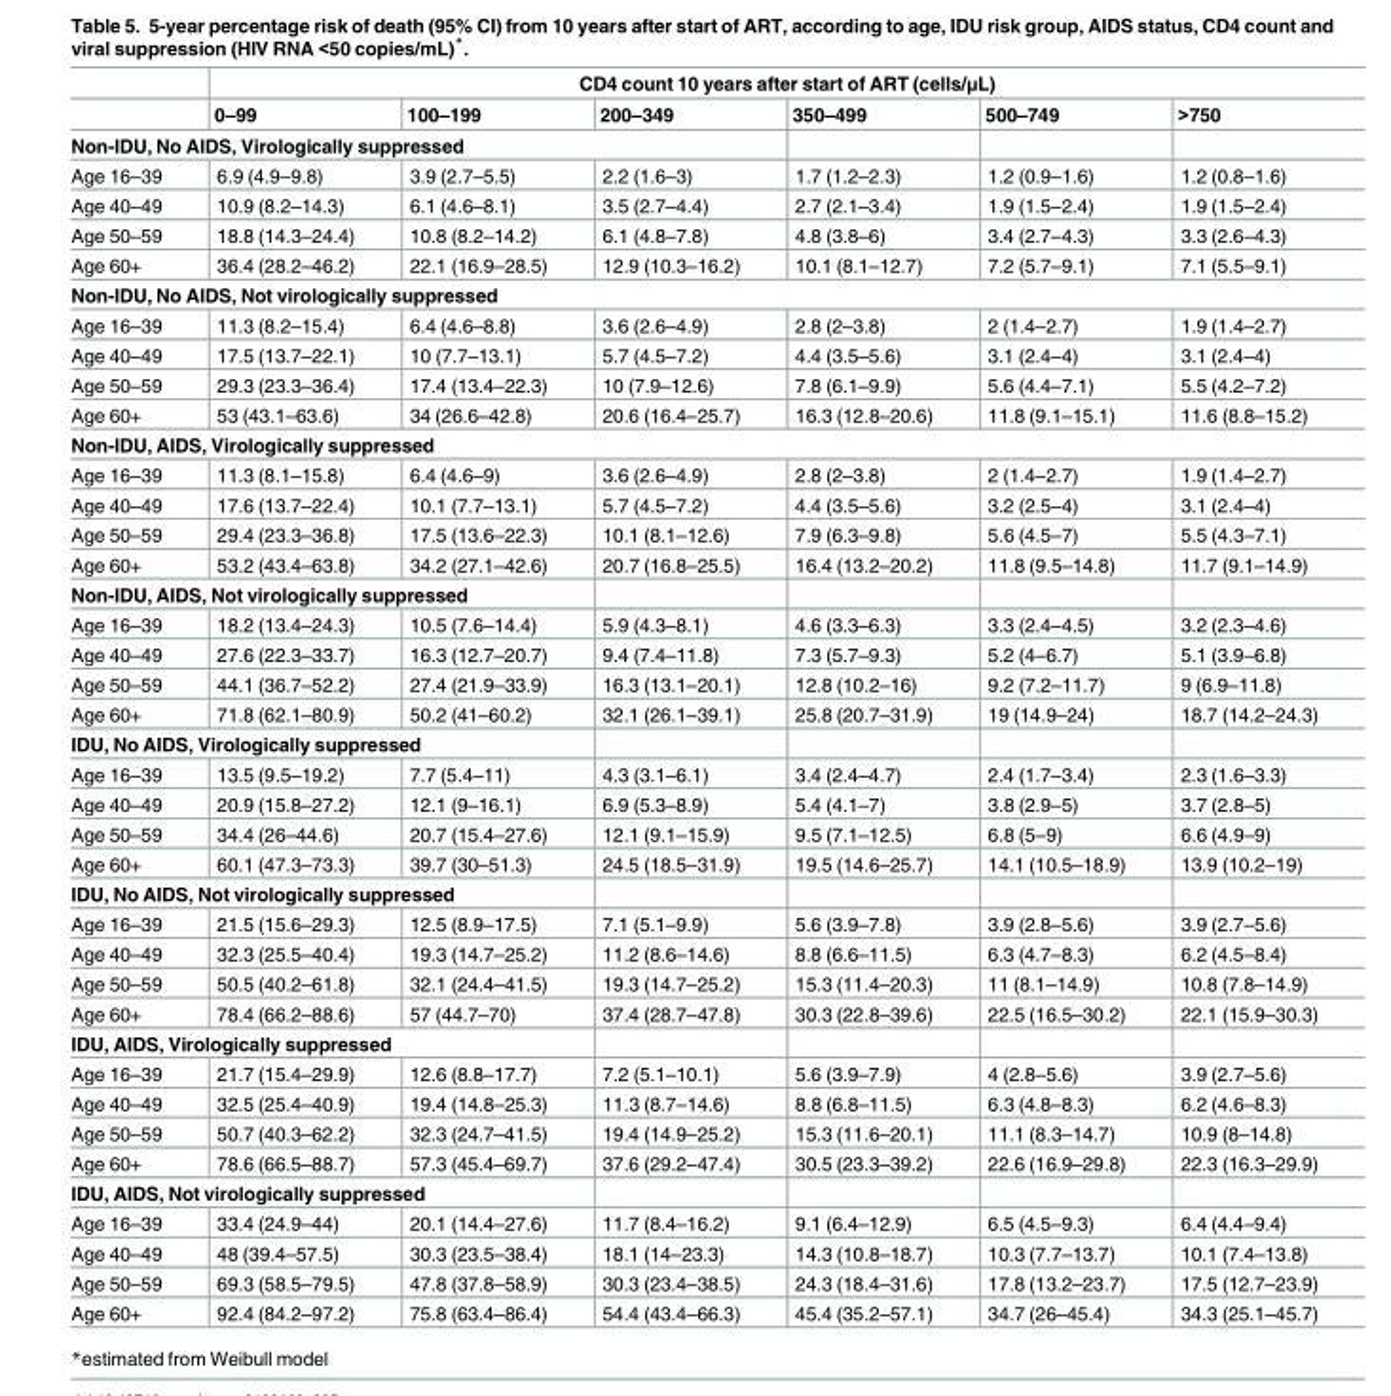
<table><thead><tr><td rowspan="2"></td><td colspan="6">CD4 count 10 years after start of ART (cells/μL)</td></tr><tr><td>0–99</td><td>100–199</td><td>200–349</td><td>350–499</td><td>500–749</td><td>&gt;750</td></tr></thead><tbody><tr><td colspan="7">Non-IDU, No AIDS, Virologically suppressed</td></tr><tr><td>Age 16–39</td><td>6.9 (4.9–9.8)</td><td>3.9 (2.7–5.5)</td><td>2.2 (1.6–3)</td><td>1.7 (1.2–2.3)</td><td>1.2 (0.9–1.6)</td><td>1.2 (0.8–1.6)</td></tr><tr><td>Age 40–49</td><td>10.9 (8.2–14.3)</td><td>6.1 (4.6–8.1)</td><td>3.5 (2.7–4.4)</td><td>2.7 (2.1–3.4)</td><td>1.9 (1.5–2.4)</td><td>1.9 (1.5–2.4)</td></tr><tr><td>Age 50–59</td><td>18.8 (14.3–24.4)</td><td>10.8 (8.2–14.2)</td><td>6.1 (4.8–7.8)</td><td>4.8 (3.8–6)</td><td>3.4 (2.7–4.3)</td><td>3.3 (2.6–4.3)</td></tr><tr><td>Age 60+</td><td>36.4 (28.2–46.2)</td><td>22.1 (16.9–28.5)</td><td>12.9 (10.3–16.2)</td><td>10.1 (8.1–12.7)</td><td>7.2 (5.7–9.1)</td><td>7.1 (5.5–9.1)</td></tr><tr><td colspan="7">Non-IDU, No AIDS, Not virologically suppressed</td></tr><tr><td>Age 16–39</td><td>11.3 (8.2–15.4)</td><td>6.4 (4.6–8.8)</td><td>3.6 (2.6–4.9)</td><td>2.8 (2–3.8)</td><td>2 (1.4–2.7)</td><td>1.9 (1.4–2.7)</td></tr><tr><td>Age 40–49</td><td>17.5 (13.7–22.1)</td><td>10 (7.7–13.1)</td><td>5.7 (4.5–7.2)</td><td>4.4 (3.5–5.6)</td><td>3.1 (2.4–4)</td><td>3.1 (2.4–4)</td></tr><tr><td>Age 50–59</td><td>29.3 (23.3–36.4)</td><td>17.4 (13.4–22.3)</td><td>10 (7.9–12.6)</td><td>7.8 (6.1–9.9)</td><td>5.6 (4.4–7.1)</td><td>5.5 (4.2–7.2)</td></tr><tr><td>Age 60+</td><td>53 (43.1–63.6)</td><td>34 (26.6–42.8)</td><td>20.6 (16.4–25.7)</td><td>16.3 (12.8–20.6)</td><td>11.8 (9.1–15.1)</td><td>11.6 (8.8–15.2)</td></tr><tr><td colspan="7">Non-IDU, AIDS, Virologically suppressed</td></tr><tr><td>Age 16–39</td><td>11.3 (8.1–15.8)</td><td>6.4 (4.6–9)</td><td>3.6 (2.6–4.9)</td><td>2.8 (2–3.8)</td><td>2 (1.4–2.7)</td><td>1.9 (1.4–2.7)</td></tr><tr><td>Age 40–49</td><td>17.6 (13.7–22.4)</td><td>10.1 (7.7–13.1)</td><td>5.7 (4.5–7.2)</td><td>4.4 (3.5–5.6)</td><td>3.2 (2.5–4)</td><td>3.1 (2.4–4)</td></tr><tr><td>Age 50–59</td><td>29.4 (23.3–36.8)</td><td>17.5 (13.6–22.3)</td><td>10.1 (8.1–12.6)</td><td>7.9 (6.3–9.8)</td><td>5.6 (4.5–7)</td><td>5.5 (4.3–7.1)</td></tr><tr><td>Age 60+</td><td>53.2 (43.4–63.8)</td><td>34.2 (27.1–42.6)</td><td>20.7 (16.8–25.5)</td><td>16.4 (13.2–20.2)</td><td>11.8 (9.5–14.8)</td><td>11.7 (9.1–14.9)</td></tr><tr><td colspan="7">Non-IDU, AIDS, Not virologically suppressed</td></tr><tr><td>Age 16–39</td><td>18.2 (13.4–24.3)</td><td>10.5 (7.6–14.4)</td><td>5.9 (4.3–8.1)</td><td>4.6 (3.3–6.3)</td><td>3.3 (2.4–4.5)</td><td>3.2 (2.3–4.6)</td></tr><tr><td>Age 40–49</td><td>27.6 (22.3–33.7)</td><td>16.3 (12.7–20.7)</td><td>9.4 (7.4–11.8)</td><td>7.3 (5.7–9.3)</td><td>5.2 (4–6.7)</td><td>5.1 (3.9–6.8)</td></tr><tr><td>Age 50–59</td><td>44.1 (36.7–52.2)</td><td>27.4 (21.9–33.9)</td><td>16.3 (13.1–20.1)</td><td>12.8 (10.2–16)</td><td>9.2 (7.2–11.7)</td><td>9 (6.9–11.8)</td></tr><tr><td>Age 60+</td><td>71.8 (62.1–80.9)</td><td>50.2 (41–60.2)</td><td>32.1 (26.1–39.1)</td><td>25.8 (20.7–31.9)</td><td>19 (14.9–24)</td><td>18.7 (14.2–24.3)</td></tr><tr><td colspan="7">IDU, No AIDS, Virologically suppressed</td></tr><tr><td>Age 16–39</td><td>13.5 (9.5–19.2)</td><td>7.7 (5.4–11)</td><td>4.3 (3.1–6.1)</td><td>3.4 (2.4–4.7)</td><td>2.4 (1.7–3.4)</td><td>2.3 (1.6–3.3)</td></tr><tr><td>Age 40–49</td><td>20.9 (15.8–27.2)</td><td>12.1 (9–16.1)</td><td>6.9 (5.3–8.9)</td><td>5.4 (4.1–7)</td><td>3.8 (2.9–5)</td><td>3.7 (2.8–5)</td></tr><tr><td>Age 50–59</td><td>34.4 (26–44.6)</td><td>20.7 (15.4–27.6)</td><td>12.1 (9.1–15.9)</td><td>9.5 (7.1–12.5)</td><td>6.8 (5–9)</td><td>6.6 (4.9–9)</td></tr><tr><td>Age 60+</td><td>60.1 (47.3–73.3)</td><td>39.7 (30–51.3)</td><td>24.5 (18.5–31.9)</td><td>19.5 (14.6–25.7)</td><td>14.1 (10.5–18.9)</td><td>13.9 (10.2–19)</td></tr><tr><td colspan="7">IDU, No AIDS, Not virologically suppressed</td></tr><tr><td>Age 16–39</td><td>21.5 (15.6–29.3)</td><td>12.5 (8.9–17.5)</td><td>7.1 (5.1–9.9)</td><td>5.6 (3.9–7.8)</td><td>3.9 (2.8–5.6)</td><td>3.9 (2.7–5.6)</td></tr><tr><td>Age 40–49</td><td>32.3 (25.5–40.4)</td><td>19.3 (14.7–25.2)</td><td>11.2 (8.6–14.6)</td><td>8.8 (6.6–11.5)</td><td>6.3 (4.7–8.3)</td><td>6.2 (4.5–8.4)</td></tr><tr><td>Age 50–59</td><td>50.5 (40.2–61.8)</td><td>32.1 (24.4–41.5)</td><td>19.3 (14.7–25.2)</td><td>15.3 (11.4–20.3)</td><td>11 (8.1–14.9)</td><td>10.8 (7.8–14.9)</td></tr><tr><td>Age 60+</td><td>78.4 (66.2–88.6)</td><td>57 (44.7–70)</td><td>37.4 (28.7–47.8)</td><td>30.3 (22.8–39.6)</td><td>22.5 (16.5–30.2)</td><td>22.1 (15.9–30.3)</td></tr><tr><td colspan="7">IDU, AIDS, Virologically suppressed</td></tr><tr><td>Age 16–39</td><td>21.7 (15.4–29.9)</td><td>12.6 (8.8–17.7)</td><td>7.2 (5.1–10.1)</td><td>5.6 (3.9–7.9)</td><td>4 (2.8–5.6)</td><td>3.9 (2.7–5.6)</td></tr><tr><td>Age 40–49</td><td>32.5 (25.4–40.9)</td><td>19.4 (14.8–25.3)</td><td>11.3 (8.7–14.6)</td><td>8.8 (6.8–11.5)</td><td>6.3 (4.8–8.3)</td><td>6.2 (4.6–8.3)</td></tr><tr><td>Age 50–59</td><td>50.7 (40.3–62.2)</td><td>32.3 (24.7–41.5)</td><td>19.4 (14.9–25.2)</td><td>15.3 (11.6–20.1)</td><td>11.1 (8.3–14.7)</td><td>10.9 (8–14.8)</td></tr><tr><td>Age 60+</td><td>78.6 (66.5–88.7)</td><td>57.3 (45.4–69.7)</td><td>37.6 (29.2–47.4)</td><td>30.5 (23.3–39.2)</td><td>22.6 (16.9–29.8)</td><td>22.3 (16.3–29.9)</td></tr><tr><td colspan="7">IDU, AIDS, Not virologically suppressed</td></tr><tr><td>Age 16–39</td><td>33.4 (24.9–44)</td><td>20.1 (14.4–27.6)</td><td>11.7 (8.4–16.2)</td><td>9.1 (6.4–12.9)</td><td>6.5 (4.5–9.3)</td><td>6.4 (4.4–9.4)</td></tr><tr><td>Age 40–49</td><td>48 (39.4–57.5)</td><td>30.3 (23.5–38.4)</td><td>18.1 (14–23.3)</td><td>14.3 (10.8–18.7)</td><td>10.3 (7.7–13.7)</td><td>10.1 (7.4–13.8)</td></tr><tr><td>Age 50–59</td><td>69.3 (58.5–79.5)</td><td>47.8 (37.8–58.9)</td><td>30.3 (23.4–38.5)</td><td>24.3 (18.4–31.6)</td><td>17.8 (13.2–23.7)</td><td>17.5 (12.7–23.9)</td></tr><tr><td>Age 60+</td><td>92.4 (84.2–97.2)</td><td>75.8 (63.4–86.4)</td><td>54.4 (43.4–66.3)</td><td>45.4 (35.2–57.1)</td><td>34.7 (26–45.4)</td><td>34.3 (25.1–45.7)</td></tr></tbody></table>